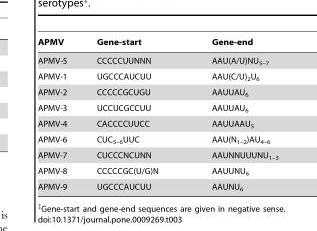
<table><thead><tr><td>APMV</td><td>Gene-start</td><td>Gene-end</td></tr></thead><tbody><tr><td>APMV-5</td><td>CCCCCUUNNN</td><td>AAU(A/U)NU<sub>5–7</sub></td></tr><tr><td>APMV-1</td><td>UGCCCAUCUU</td><td>AAU(C/U)<sub>2</sub>U<sub>6</sub></td></tr><tr><td>APMV-2</td><td>CCCCCGCUGU</td><td>AAUUAU<sub>6</sub></td></tr><tr><td>APMV-3</td><td>UCCUCGCCUU</td><td>AAUUAU<sub>6</sub></td></tr><tr><td>APMV-4</td><td>CACCCCUUCC</td><td>AAUUAAU<sub>5</sub></td></tr><tr><td>APMV-6</td><td>CUC<sub>5–6</sub>UUC</td><td>AAU(N<sub>1–2</sub>)AU<sub>4–6</sub></td></tr><tr><td>APMV-7</td><td>CUCCCNCUNN</td><td>AAUNNUUUNU<sub>1–3</sub></td></tr><tr><td>APMV-8</td><td>CCCCCGC(U/G)N</td><td>AAUUNU<sub>6</sub></td></tr><tr><td>APMV-9</td><td>UGCCCAUCUU</td><td>AAUNU<sub>6</sub></td></tr></tbody></table>